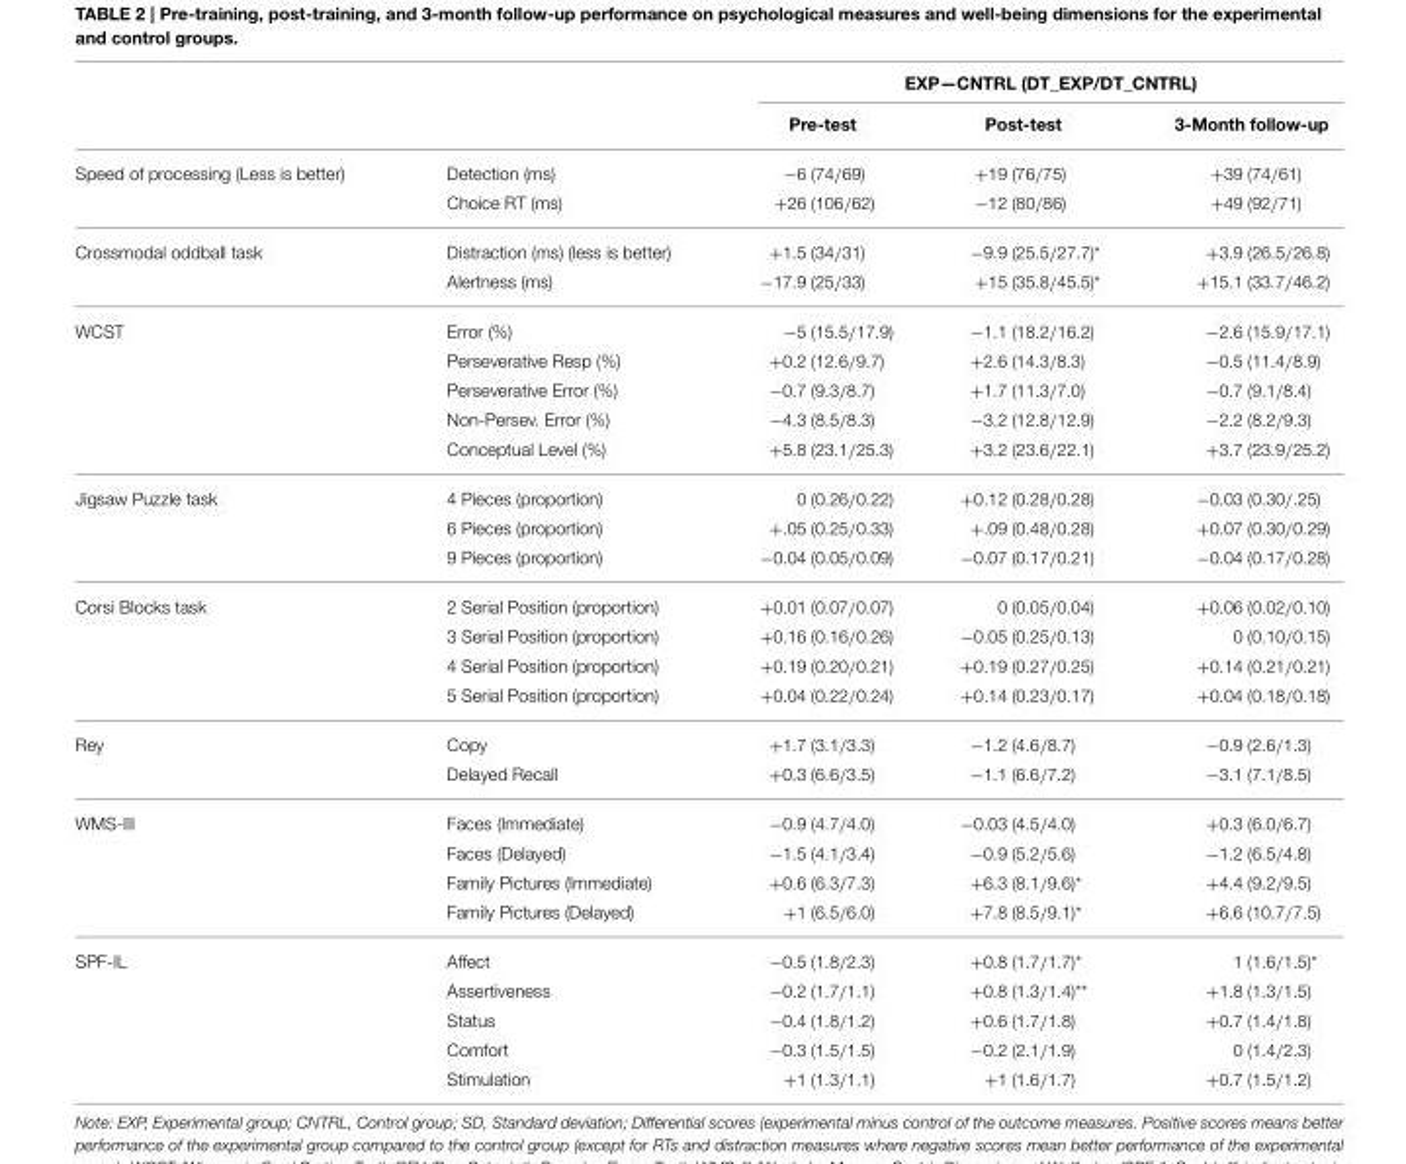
<table><thead><tr><td rowspan="2"></td><td rowspan="2"></td><td colspan="3">EXP—CNTRL (DT_EXP/DT_CNTRL)</td></tr><tr><td>Pre-test</td><td>Post-test</td><td>3-Month follow-up</td></tr></thead><tbody><tr><td rowspan="2">Speed of processing (Less is better)</td><td>Detection (ms)</td><td>−6 (74/69)</td><td>+19 (76/75)</td><td>+39 (74/61)</td></tr><tr><td>Choice RT (ms)</td><td>+26 (106/62)</td><td>−12 (80/86)</td><td>+49 (92/71)</td></tr><tr><td rowspan="2">Crossmodal oddball task</td><td>Distraction (ms) (less is better)</td><td>+1.5 (34/31)</td><td>−9.9 (25.5/27.7)*</td><td>+3.9 (26.5/26.8)</td></tr><tr><td>Alertness (ms)</td><td>−17.9 (25/33)</td><td>+15 (35.8/45.5)*</td><td>+15.1 (33.7/46.2)</td></tr><tr><td rowspan="5">WCST</td><td>Error (%)</td><td>−5 (15.5/17.9)</td><td>−1.1 (18.2/16.2)</td><td>−2.6 (15.9/17.1)</td></tr><tr><td>Perseverative Resp (%)</td><td>+0.2 (12.6/9.7)</td><td>+2.6 (14.3/8.3)</td><td>−0.5 (11.4/8.9)</td></tr><tr><td>Perseverative Error (%)</td><td>−0.7 (9.3/8.7)</td><td>+1.7 (11.3/7.0)</td><td>−0.7 (9.1/8.4)</td></tr><tr><td>Non-Persev. Error (%)</td><td>−4.3 (8.5/8.3)</td><td>−3.2 (12.8/12.9)</td><td>−2.2 (8.2/9.3)</td></tr><tr><td>Conceptual Level (%)</td><td>+5.8 (23.1/25.3)</td><td>+3.2 (23.6/22.1)</td><td>+3.7 (23.9/25.2)</td></tr><tr><td rowspan="3">Jigsaw Puzzle task</td><td>4 Pieces (proportion)</td><td>0 (0.26/0.22)</td><td>+0.12 (0.28/0.28)</td><td>−0.03 (0.30/.25)</td></tr><tr><td>6 Pieces (proportion)</td><td>+.05 (0.25/0.33)</td><td>+.09 (0.48/0.28)</td><td>+0.07 (0.30/0.29)</td></tr><tr><td>9 Pieces (proportion)</td><td>−0.04 (0.05/0.09)</td><td>−0.07 (0.17/0.21)</td><td>−0.04 (0.17/0.28)</td></tr><tr><td rowspan="4">Corsi Blocks task</td><td>2 Serial Position (proportion)</td><td>+0.01 (0.07/0.07)</td><td>0 (0.05/0.04)</td><td>+0.06 (0.02/0.10)</td></tr><tr><td>3 Serial Position (proportion)</td><td>+0.16 (0.16/0.26)</td><td>−0.05 (0.25/0.13)</td><td>0 (0.10/0.15)</td></tr><tr><td>4 Serial Position (proportion)</td><td>+0.19 (0.20/0.21)</td><td>+0.19 (0.27/0.25)</td><td>+0.14 (0.21/0.21)</td></tr><tr><td>5 Serial Position (proportion)</td><td>+0.04 (0.22/0.24)</td><td>+0.14 (0.23/0.17)</td><td>+0.04 (0.18/0.18)</td></tr><tr><td rowspan="2">Rey</td><td>Copy</td><td>+1.7 (3.1/3.3)</td><td>−1.2 (4.6/8.7)</td><td>−0.9 (2.6/1.3)</td></tr><tr><td>Delayed Recall</td><td>+0.3 (6.6/3.5)</td><td>−1.1 (6.6/7.2)</td><td>−3.1 (7.1/8.5)</td></tr><tr><td rowspan="4">WMS-III</td><td>Faces (Immediate)</td><td>−0.9 (4.7/4.0)</td><td>−0.03 (4.5/4.0)</td><td>+0.3 (6.0/6.7)</td></tr><tr><td>Faces (Delayed)</td><td>−1.5 (4.1/3.4)</td><td>−0.9 (5.2/5.6)</td><td>−1.2 (6.5/4.8)</td></tr><tr><td>Family Pictures (Immediate)</td><td>+0.6 (6.3/7.3)</td><td>+6.3 (8.1/9.6)*</td><td>+4.4 (9.2/9.5)</td></tr><tr><td>Family Pictures (Delayed)</td><td>+1 (6.5/6.0)</td><td>+7.8 (8.5/9.1)*</td><td>+6.6 (10.7/7.5)</td></tr><tr><td rowspan="5">SPF-IL</td><td>Affect</td><td>−0.5 (1.8/2.3)</td><td>+0.8 (1.7/1.7)*</td><td>1 (1.6/1.5)*</td></tr><tr><td>Assertiveness</td><td>−0.2 (1.7/1.1)</td><td>+0.8 (1.3/1.4)**</td><td>+1.8 (1.3/1.5)</td></tr><tr><td>Status</td><td>−0.4 (1.8/1.2)</td><td>+0.6 (1.7/1.8)</td><td>+0.7 (1.4/1.8)</td></tr><tr><td>Comfort</td><td>−0.3 (1.5/1.5)</td><td>−0.2 (2.1/1.9)</td><td>0 (1.4/2.3)</td></tr><tr><td>Stimulation</td><td>+1 (1.3/1.1)</td><td>+1 (1.6/1.7)</td><td>+0.7 (1.5/1.2)</td></tr></tbody></table>